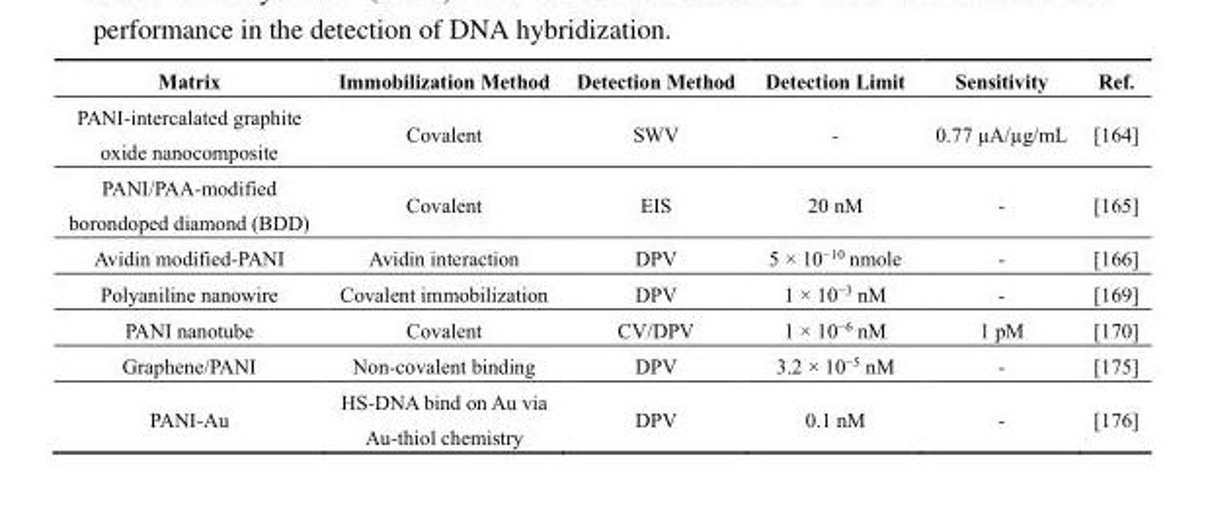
<table><thead><tr><td>Matrix</td><td>Immobilization Method</td><td>Detection Method</td><td>Detection Limit</td><td>Sensitivity</td><td>Ref.</td></tr></thead><tbody><tr><td>PANI-intercalated graphite oxide nanocomposite</td><td>Covalent</td><td>SWV</td><td>-</td><td>0.77 µA/µg/mL</td><td>[164]</td></tr><tr><td>PANI/PAA-modified borondoped diamond (BDD)</td><td>Covalent</td><td>EIS</td><td>20 nM</td><td>-</td><td>[165]</td></tr><tr><td>Avidin modified-PANI</td><td>Avidin interaction</td><td>DPV</td><td>5 × 10<sup>−10</sup> nmole</td><td>-</td><td>[166]</td></tr><tr><td>Polyaniline nanowire</td><td>Covalent immobilization</td><td>DPV</td><td>1 × 10<sup>−3</sup> nM</td><td>-</td><td>[169]</td></tr><tr><td>PANI nanotube</td><td>Covalent</td><td>CV/DPV</td><td>1 × 10<sup>−6</sup> nM</td><td>1 pM</td><td>[170]</td></tr><tr><td>Graphene/PANI</td><td>Non-covalent binding</td><td>DPV</td><td>3.2 × 10<sup>−5</sup> nM</td><td>-</td><td>[175]</td></tr><tr><td>PANI-Au</td><td>HS-DNA bind on Au via Au-thiol chemistry</td><td>DPV</td><td>0.1 nM</td><td>-</td><td>[176]</td></tr></tbody></table>